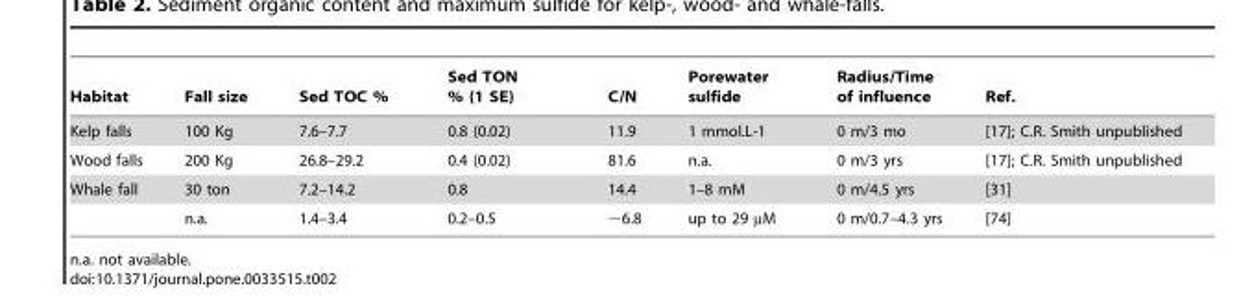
<table><thead><tr><td>Habitat</td><td>Fall size</td><td>Sed TOC %</td><td>Sed TON % (1 SE)</td><td>C/N</td><td>Porewater sulfide</td><td>Radius/Time of influence</td><td>Ref.</td></tr></thead><tbody><tr><td>Kelp falls</td><td>100 Kg</td><td>7.6–7.7</td><td>0.8 (0.02)</td><td>11.9</td><td>1 mmol.L-1</td><td>0 m/3 mo</td><td>[17]; C.R. Smith unpublished</td></tr><tr><td>Wood falls</td><td>200 Kg</td><td>26.8–29.2</td><td>0.4 (0.02)</td><td>81.6</td><td>n.a.</td><td>0 m/3 yrs</td><td>[17]; C.R. Smith unpublished</td></tr><tr><td rowspan="2">Whale fall</td><td>30 ton</td><td>7.2–14.2</td><td>0.8</td><td>14.4</td><td>1–8 mM</td><td>0 m/4.5 yrs</td><td>[31]</td></tr><tr><td>n.a.</td><td>1.4–3.4</td><td>0.2–0.5</td><td>∼6.8</td><td>up to 29 µM</td><td>0 m/0.7–4.3 yrs</td><td>[74]</td></tr></tbody></table>